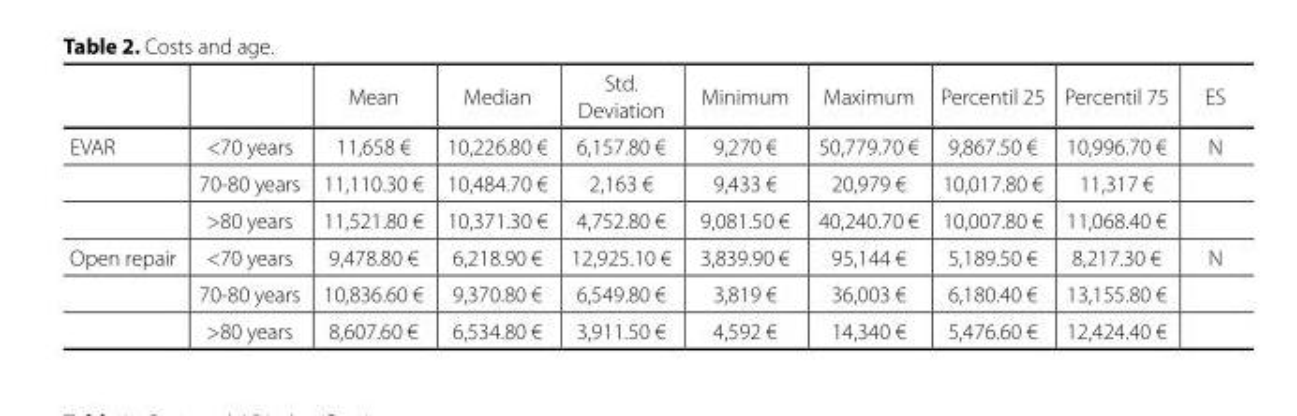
<table><thead><tr><td></td><td></td><td>Mean</td><td>Median</td><td>Std. Deviation</td><td>Minimum</td><td>Maximum</td><td>Percentil 25</td><td>Percentil 75</td><td>ES</td></tr></thead><tbody><tr><td rowspan="3">EVAR</td><td>&lt;70 years</td><td>11,658 €</td><td>10,226.80 €</td><td>6,157.80 €</td><td>9,270 €</td><td>50,779.70 €</td><td>9,867.50 €</td><td>10,996.70 €</td><td>N</td></tr><tr><td>70-80 years</td><td>11,110.30 €</td><td>10,484.70 €</td><td>2,163 €</td><td>9,433 €</td><td>20,979 €</td><td>10,017.80 €</td><td>11,317 €</td><td></td></tr><tr><td>&gt;80 years</td><td>11,521.80 €</td><td>10,371.30 €</td><td>4,752.80 €</td><td>9,081.50 €</td><td>40,240.70 €</td><td>10,007.80 €</td><td>11,068.40 €</td><td></td></tr><tr><td rowspan="3">Open repair</td><td>&lt;70 years</td><td>9,478.80 €</td><td>6,218.90 €</td><td>12,925.10 €</td><td>3,839.90 €</td><td>95,144 €</td><td>5,189.50 €</td><td>8,217.30 €</td><td>N</td></tr><tr><td>70-80 years</td><td>10,836.60 €</td><td>9,370.80 €</td><td>6,549.80 €</td><td>3,819 €</td><td>36,003 €</td><td>6,180.40 €</td><td>13,155.80 €</td><td></td></tr><tr><td>&gt;80 years</td><td>8,607.60 €</td><td>6,534.80 €</td><td>3,911.50 €</td><td>4,592 €</td><td>14,340 €</td><td>5,476.60 €</td><td>12,424.40 €</td><td></td></tr></tbody></table>